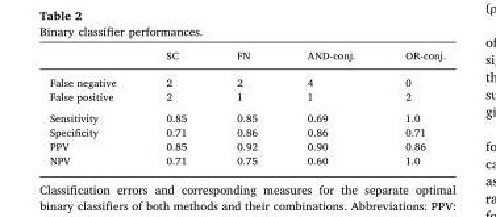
<table><thead><tr><td></td><td>SC</td><td>FN</td><td>AND-conj.</td><td>OR-conj.</td></tr></thead><tbody><tr><td>False negative</td><td>2</td><td>2</td><td>4</td><td>0</td></tr><tr><td>False positive</td><td>2</td><td>1</td><td>1</td><td>2</td></tr><tr><td>Sensitivity</td><td>0.85</td><td>0.85</td><td>0.69</td><td>1.0</td></tr><tr><td>Specificity</td><td>0.71</td><td>0.86</td><td>0.86</td><td>0.71</td></tr><tr><td>PPV</td><td>0.85</td><td>0.92</td><td>0.90</td><td>0.86</td></tr><tr><td>NPV</td><td>0.71</td><td>0.75</td><td>0.60</td><td>1.0</td></tr></tbody></table>